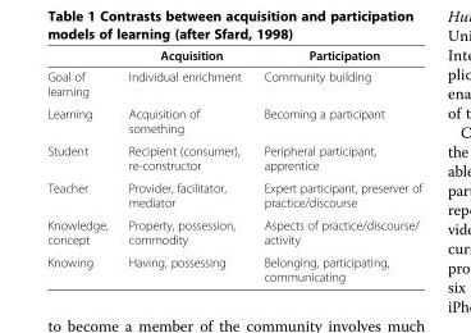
<table><thead><tr><td></td><td>Acquisition</td><td>Participation</td></tr></thead><tbody><tr><td>Goal of learning</td><td>Individual enrichment</td><td>Community building</td></tr><tr><td>Learning</td><td>Acquisition of something</td><td>Becoming a participant</td></tr><tr><td>Student</td><td>Recipient (consumer), re-constructor</td><td>Peripheral participant, apprentice</td></tr><tr><td>Teacher</td><td>Provider, facilitator, mediator</td><td>Expert participant, preserver of practice/discourse</td></tr><tr><td>Knowledge, concept</td><td>Property, possession, commodity</td><td>Aspects of practice/discourse/ activity</td></tr><tr><td>Knowing</td><td>Having, possessing</td><td>Belonging, participating, communicating</td></tr></tbody></table>